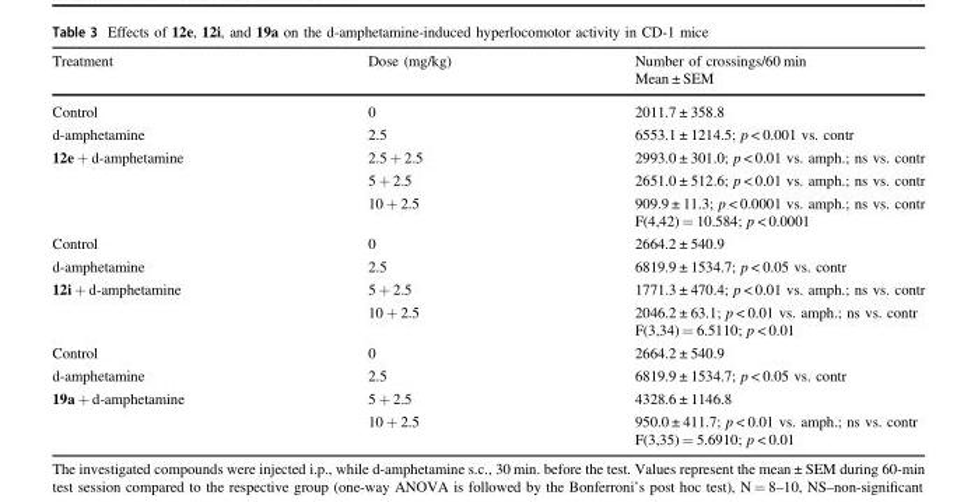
<table><thead><tr><td>Treatment</td><td>Dose (mg/kg)</td><td>Number of crossings/60 min Mean ± SEM</td></tr></thead><tbody><tr><td>Control</td><td>0</td><td>2011.7 ± 358.8</td></tr><tr><td>d-amphetamine</td><td>2.5</td><td>6553.1 ± 1214.5; p &lt; 0.001 vs. contr</td></tr><tr><td rowspan="3">12e + d-amphetamine</td><td>2.5 + 2.5</td><td>2993.0 ± 301.0; p &lt; 0.01 vs. amph.; ns vs. contr</td></tr><tr><td>5 + 2.5</td><td>2651.0 ± 512.6; p &lt; 0.01 vs. amph.; ns vs. contr</td></tr><tr><td>10 + 2.5</td><td>909.9 ± 11.3; p &lt; 0.0001 vs. amph.; ns vs. contr F(4,42) = 10.584; p &lt; 0.0001</td></tr><tr><td>Control</td><td>0</td><td>2664.2 ± 540.9</td></tr><tr><td>d-amphetamine</td><td>2.5</td><td>6819.9 ± 1534.7; p &lt; 0.05 vs. contr</td></tr><tr><td rowspan="2">12i + d-amphetamine</td><td>5 + 2.5</td><td>1771.3 ± 470.4; p &lt; 0.01 vs. amph.; ns vs. contr</td></tr><tr><td>10 + 2.5</td><td>2046.2 ± 63.1; p &lt; 0.01 vs. amph.; ns vs. contr F(3,34) = 6.5110; p &lt; 0.01</td></tr><tr><td>Control</td><td>0</td><td>2664.2 ± 540.9</td></tr><tr><td>d-amphetamine</td><td>2.5</td><td>6819.9 ± 1534.7; p &lt; 0.05 vs. contr</td></tr><tr><td rowspan="2">19a + d-amphetamine</td><td>5 + 2.5</td><td>4328.6 ± 1146.8</td></tr><tr><td>10 + 2.5</td><td>950.0 ± 411.7; p &lt; 0.01 vs. amph.; ns vs. contr F(3,35) = 5.6910; p &lt; 0.01</td></tr></tbody></table>